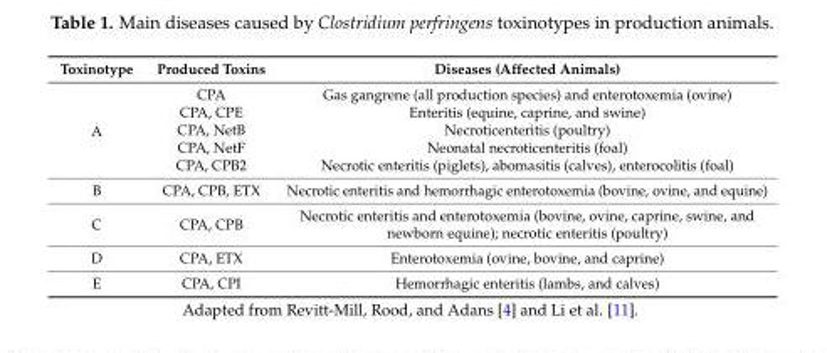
<table><thead><tr><td>Toxinotype</td><td>Produced Toxins</td><td>Diseases (Affected Animals)</td></tr></thead><tbody><tr><td rowspan="5">A</td><td>CPA</td><td>Gas gangrene (all production species) and enterotoxemia (ovine)</td></tr><tr><td>CPA, CPE</td><td>Enteritis (equine, caprine, and swine)</td></tr><tr><td>CPA, NetB</td><td>Necroticenteritis (poultry)</td></tr><tr><td>CPA, NetF</td><td>Neonatal necroticenteritis (foal)</td></tr><tr><td>CPA, CPB2</td><td>Necrotic enteritis (piglets), abomasitis (calves), enterocolitis (foal)</td></tr><tr><td>B</td><td>CPA, CPB, ETX</td><td>Necrotic enteritis and hemorrhagic enterotoxemia (bovine, ovine, and equine)</td></tr><tr><td>C</td><td>CPA, CPB</td><td>Necrotic enteritis and enterotoxemia (bovine, ovine, caprine, swine, and newborn equine); necrotic enteritis (poultry)</td></tr><tr><td>D</td><td>CPA, ETX</td><td>Enterotoxemia (ovine, bovine, and caprine)</td></tr><tr><td>E</td><td>CPA, CPI</td><td>Hemorrhagic enteritis (lambs, and calves)</td></tr></tbody></table>